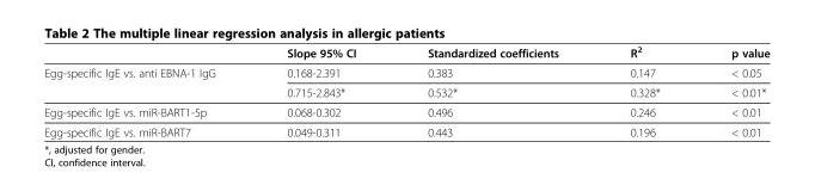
<table><thead><tr><td></td><td>Slope 95% CI</td><td>Standardized coefficients</td><td>R<sup>2</sup></td><td>p value</td></tr></thead><tbody><tr><td rowspan="2">Egg-specific IgE vs. anti EBNA-1 IgG</td><td>0.168-2.391</td><td>0.383</td><td>0.147</td><td>&lt; 0.05</td></tr><tr><td>0.715-2.843*</td><td>0.532*</td><td>0.328*</td><td>&lt; 0.01*</td></tr><tr><td>Egg-specific IgE vs. miR-BART1-5p</td><td>0.068-0.302</td><td>0.496</td><td>0.246</td><td>&lt; 0.01</td></tr><tr><td>Egg-specific IgE vs. miR-BART7</td><td>0.049-0.311</td><td>0.443</td><td>0.196</td><td>&lt; 0.01</td></tr></tbody></table>